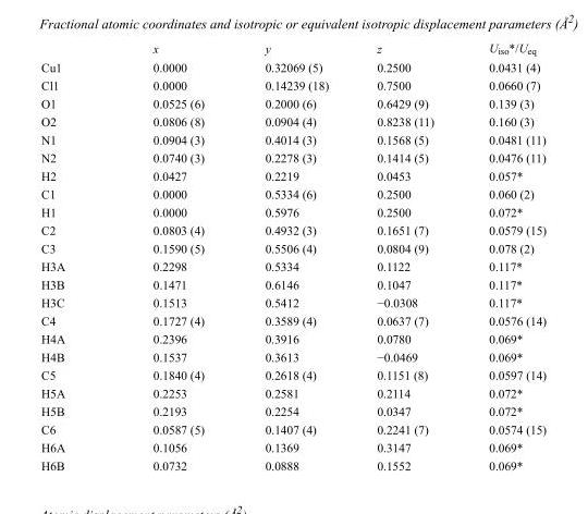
<table><thead><tr><td></td><td>x</td><td>y</td><td>z</td><td>U<sub>iso</sub>*/U<sub>eq</sub></td></tr></thead><tbody><tr><td>Cu1</td><td>0.0000</td><td>0.32069 (5)</td><td>0.2500</td><td>0.0431 (4)</td></tr><tr><td>Cl1</td><td>0.0000</td><td>0.14239 (18)</td><td>0.7500</td><td>0.0660 (7)</td></tr><tr><td>O1</td><td>0.0525 (6)</td><td>0.2000 (6)</td><td>0.6429 (9)</td><td>0.139 (3)</td></tr><tr><td>O2</td><td>0.0806 (8)</td><td>0.0904 (4)</td><td>0.8238 (11)</td><td>0.160 (3)</td></tr><tr><td>N1</td><td>0.0904 (3)</td><td>0.4014 (3)</td><td>0.1568 (5)</td><td>0.0481 (11)</td></tr><tr><td>N2</td><td>0.0740 (3)</td><td>0.2278 (3)</td><td>0.1414 (5)</td><td>0.0476 (11)</td></tr><tr><td>H2</td><td>0.0427</td><td>0.2219</td><td>0.0453</td><td>0.057*</td></tr><tr><td>C1</td><td>0.0000</td><td>0.5334 (6)</td><td>0.2500</td><td>0.060 (2)</td></tr><tr><td>H1</td><td>0.0000</td><td>0.5976</td><td>0.2500</td><td>0.072*</td></tr><tr><td>C2</td><td>0.0803 (4)</td><td>0.4932 (3)</td><td>0.1651 (7)</td><td>0.0579 (15)</td></tr><tr><td>C3</td><td>0.1590 (5)</td><td>0.5506 (4)</td><td>0.0804 (9)</td><td>0.078 (2)</td></tr><tr><td>H3A</td><td>0.2298</td><td>0.5334</td><td>0.1122</td><td>0.117*</td></tr><tr><td>H3B</td><td>0.1471</td><td>0.6146</td><td>0.1047</td><td>0.117*</td></tr><tr><td>H3C</td><td>0.1513</td><td>0.5412</td><td>−0.0308</td><td>0.117*</td></tr><tr><td>C4</td><td>0.1727 (4)</td><td>0.3589 (4)</td><td>0.0637 (7)</td><td>0.0576 (14)</td></tr><tr><td>H4A</td><td>0.2396</td><td>0.3916</td><td>0.0780</td><td>0.069*</td></tr><tr><td>H4B</td><td>0.1537</td><td>0.3613</td><td>−0.0469</td><td>0.069*</td></tr><tr><td>C5</td><td>0.1840 (4)</td><td>0.2618 (4)</td><td>0.1151 (8)</td><td>0.0597 (14)</td></tr><tr><td>H5A</td><td>0.2253</td><td>0.2581</td><td>0.2114</td><td>0.072*</td></tr><tr><td>H5B</td><td>0.2193</td><td>0.2254</td><td>0.0347</td><td>0.072*</td></tr><tr><td>C6</td><td>0.0587 (5)</td><td>0.1407 (4)</td><td>0.2241 (7)</td><td>0.0574 (15)</td></tr><tr><td>H6A</td><td>0.1056</td><td>0.1369</td><td>0.3147</td><td>0.069*</td></tr><tr><td>H6B</td><td>0.0732</td><td>0.0888</td><td>0.1552</td><td>0.069*</td></tr></tbody></table>